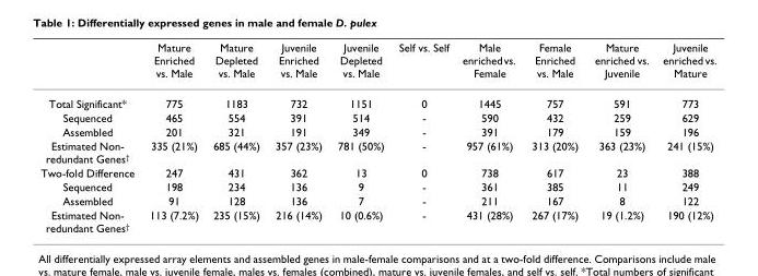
<table><thead><tr><td></td><td>Mature Enriched vs. Male</td><td>Mature Depleted vs. Male</td><td>Juvenile Enriched vs. Male</td><td>Juvenile Depleted vs. Male</td><td>Self vs. Self</td><td>Male enriched vs. Female</td><td>Female Enriched vs. Male</td><td>Mature enriched vs. Juvenile</td><td>Juvenile enriched vs. Mature</td></tr></thead><tbody><tr><td>Total Significant*</td><td>775</td><td>1183</td><td>732</td><td>1151</td><td>0</td><td>1445</td><td>757</td><td>591</td><td>773</td></tr><tr><td>Sequenced</td><td>465</td><td>554</td><td>391</td><td>514</td><td>-</td><td>590</td><td>432</td><td>259</td><td>629</td></tr><tr><td>Assembled</td><td>201</td><td>321</td><td>191</td><td>349</td><td>-</td><td>391</td><td>179</td><td>159</td><td>196</td></tr><tr><td>Estimated Non- redundant Genes<sup>†</sup></td><td>335 (21%)</td><td>685 (44%)</td><td>357 (23%)</td><td>781 (50%)</td><td>-</td><td>957 (61%)</td><td>313 (20%)</td><td>363 (23%)</td><td>241 (15%)</td></tr><tr><td>Two-fold Difference</td><td>247</td><td>431</td><td>362</td><td>13</td><td>0</td><td>738</td><td>617</td><td>23</td><td>388</td></tr><tr><td>Sequenced</td><td>198</td><td>234</td><td>136</td><td>9</td><td>-</td><td>361</td><td>385</td><td>11</td><td>249</td></tr><tr><td>Assembled</td><td>91</td><td>128</td><td>136</td><td>7</td><td>-</td><td>211</td><td>167</td><td>8</td><td>122</td></tr><tr><td>Estimated Non- redundant Genes<sup>†</sup></td><td>113 (7.2%)</td><td>235 (15%)</td><td>216 (14%)</td><td>10 (0.6%)</td><td>-</td><td>431 (28%)</td><td>267 (17%)</td><td>19 (1.2%)</td><td>190 (12%)</td></tr></tbody></table>